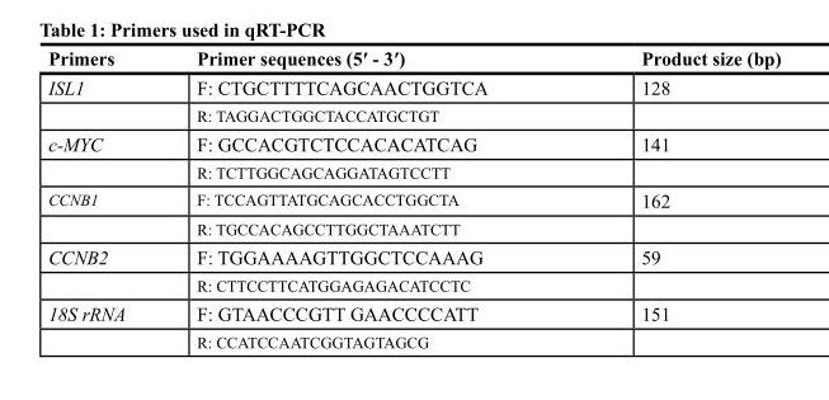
<table><thead><tr><td>Primers</td><td>Primer sequences (5′ - 3′)</td><td>Product size (bp)</td></tr></thead><tbody><tr><td rowspan="2">ISL1</td><td>F: CTGCTTTTCAGCAACTGGTCA</td><td>128</td></tr><tr><td>R: TAGGACTGGCTACCATGCTGT</td><td></td></tr><tr><td rowspan="2">c-MYC</td><td>F: GCCACGTCTCCACACATCAG</td><td>141</td></tr><tr><td>R: TCTTGGCAGCAGGATAGTCCTT</td><td></td></tr><tr><td rowspan="2">CCNB1</td><td>F: TCCAGTTATGCAGCACCTGGCTA</td><td>162</td></tr><tr><td>R: TGCCACAGCCTTGGCTAAATCTT</td><td></td></tr><tr><td rowspan="2">CCNB2</td><td>F: TGGAAAAGTTGGCTCCAAAG</td><td>59</td></tr><tr><td>R: CTTCCTTCATGGAGAGACATCCTC</td><td></td></tr><tr><td rowspan="2">18S rRNA</td><td>F: GTAACCCGTT GAACCCCATT</td><td>151</td></tr><tr><td>R: CCATCCAATCGGTAGTAGCG</td><td></td></tr></tbody></table>